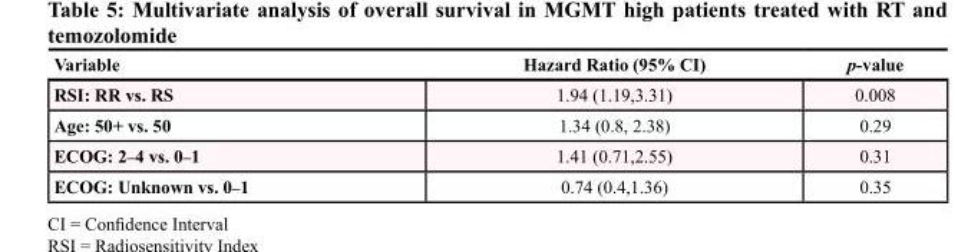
<table><thead><tr><td>Variable</td><td>Hazard Ratio (95% CI)</td><td>p-value</td></tr></thead><tbody><tr><td>RSI: RR vs. RS</td><td>1.94 (1.19,3.31)</td><td>0.008</td></tr><tr><td>Age: 50+ vs. 50</td><td>1.34 (0.8, 2.38)</td><td>0.29</td></tr><tr><td>ECOG: 2–4 vs. 0–1</td><td>1.41 (0.71,2.55)</td><td>0.31</td></tr><tr><td>ECOG: Unknown vs. 0–1</td><td>0.74 (0.4,1.36)</td><td>0.35</td></tr></tbody></table>